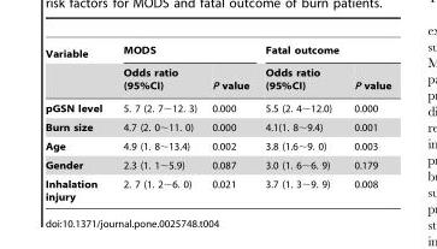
<table><thead><tr><td rowspan="2">Variable</td><td colspan="2">MODS</td><td colspan="2">Fatal outcome</td></tr><tr><td>Odds ratio (95%CI)</td><td>P value</td><td>Odds ratio (95%CI)</td><td>P value</td></tr></thead><tbody><tr><td>pGSN level</td><td>5. 7 (2. 7∼12. 3)</td><td>0.000</td><td>5.5 (2. 4∼12.0)</td><td>0.000</td></tr><tr><td>Burn size</td><td>4.7 (2. 0∼11. 0)</td><td>0.000</td><td>4.1(1. 8∼9.4)</td><td>0.001</td></tr><tr><td>Age</td><td>4.9 (1. 8∼13.4)</td><td>0.002</td><td>3.8 (1.6∼9. 0)</td><td>0.003</td></tr><tr><td>Gender</td><td>2.3 (1. 1∼5.9)</td><td>0.087</td><td>3.0 (1. 6∼6. 9)</td><td>0.179</td></tr><tr><td>Inhalation injury</td><td>2. 7 (1. 2∼6. 0)</td><td>0.021</td><td>3.7 (1. 3∼9. 9)</td><td>0.008</td></tr></tbody></table>